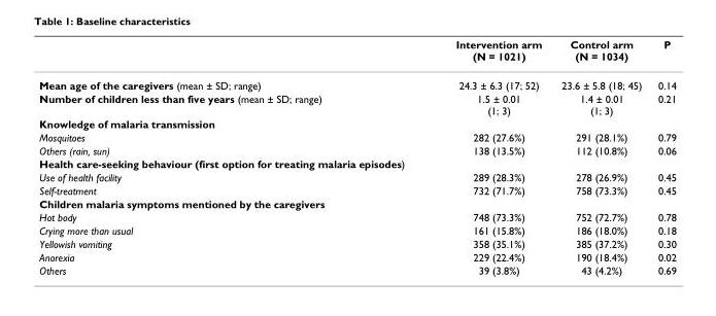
<table><thead><tr><td></td><td>Intervention arm (N = 1021)</td><td>Control arm (N = 1034)</td><td>P</td></tr></thead><tbody><tr><td>Mean age of the caregivers (mean ± SD; range)</td><td>24.3 ± 6.3 (17; 52)</td><td>23.6 ± 5.8 (18; 45)</td><td>0.14</td></tr><tr><td>Number of children less than five years (mean ± SD; range)</td><td>1.5 ± 0.01 (1; 3)</td><td>1.4 ± 0.01 (1; 3)</td><td>0.21</td></tr><tr><td colspan="4">Knowledge of malaria transmission</td></tr><tr><td>Mosquitoes</td><td>282 (27.6%)</td><td>291 (28.1%)</td><td>0.79</td></tr><tr><td>Others (rain, sun)</td><td>138 (13.5%)</td><td>112 (10.8%)</td><td>0.06</td></tr><tr><td colspan="4">Health care-seeking behaviour (first option for treating malaria episodes)</td></tr><tr><td>Use of health facility</td><td>289 (28.3%)</td><td>278 (26.9%)</td><td>0.45</td></tr><tr><td>Self-treatment</td><td>732 (71.7%)</td><td>758 (73.3%)</td><td>0.45</td></tr><tr><td colspan="4">Children malaria symptoms mentioned by the caregivers</td></tr><tr><td>Hot body</td><td>748 (73.3%)</td><td>752 (72.7%)</td><td>0.78</td></tr><tr><td>Crying more than usual</td><td>161 (15.8%)</td><td>186 (18.0%)</td><td>0.18</td></tr><tr><td>Yellowish vomiting</td><td>358 (35.1%)</td><td>385 (37.2%)</td><td>0.30</td></tr><tr><td>Anorexia</td><td>229 (22.4%)</td><td>190 (18.4%)</td><td>0.02</td></tr><tr><td>Others</td><td>39 (3.8%)</td><td>43 (4.2%)</td><td>0.69</td></tr></tbody></table>